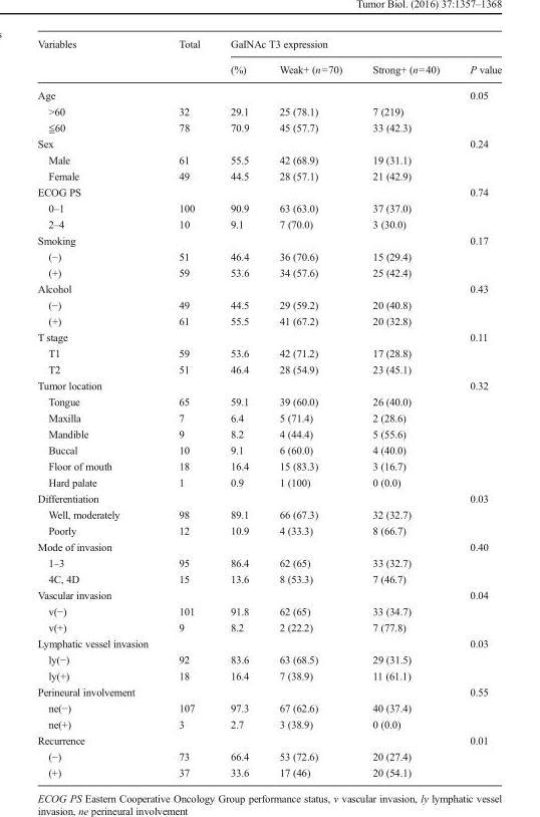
<table><thead><tr><td rowspan="2">Variables</td><td rowspan="2">Total</td><td colspan="4">GaINAc T3 expression</td></tr><tr><td>(%)</td><td>Weak+ (n=70)</td><td>Strong+ (n=40)</td><td>P value</td></tr></thead><tbody><tr><td>Age</td><td></td><td></td><td></td><td></td><td>0.05</td></tr><tr><td>&gt;60</td><td>32</td><td>29.1</td><td>25 (78.1)</td><td>7 (219)</td><td></td></tr><tr><td>≦60</td><td>78</td><td>70.9</td><td>45 (57.7)</td><td>33 (42.3)</td><td></td></tr><tr><td>Sex</td><td></td><td></td><td></td><td></td><td>0.24</td></tr><tr><td>Male</td><td>61</td><td>55.5</td><td>42 (68.9)</td><td>19 (31.1)</td><td></td></tr><tr><td>Female</td><td>49</td><td>44.5</td><td>28 (57.1)</td><td>21 (42.9)</td><td></td></tr><tr><td>ECOG PS</td><td></td><td></td><td></td><td></td><td>0.74</td></tr><tr><td>0–1</td><td>100</td><td>90.9</td><td>63 (63.0)</td><td>37 (37.0)</td><td></td></tr><tr><td>2–4</td><td>10</td><td>9.1</td><td>7 (70.0)</td><td>3 (30.0)</td><td></td></tr><tr><td>Smoking</td><td></td><td></td><td></td><td></td><td>0.17</td></tr><tr><td>(−)</td><td>51</td><td>46.4</td><td>36 (70.6)</td><td>15 (29.4)</td><td></td></tr><tr><td>(+)</td><td>59</td><td>53.6</td><td>34 (57.6)</td><td>25 (42.4)</td><td></td></tr><tr><td>Alcohol</td><td></td><td></td><td></td><td></td><td>0.43</td></tr><tr><td>(−)</td><td>49</td><td>44.5</td><td>29 (59.2)</td><td>20 (40.8)</td><td></td></tr><tr><td>(+)</td><td>61</td><td>55.5</td><td>41 (67.2)</td><td>20 (32.8)</td><td></td></tr><tr><td>T stage</td><td></td><td></td><td></td><td></td><td>0.11</td></tr><tr><td>T1</td><td>59</td><td>53.6</td><td>42 (71.2)</td><td>17 (28.8)</td><td></td></tr><tr><td>T2</td><td>51</td><td>46.4</td><td>28 (54.9)</td><td>23 (45.1)</td><td></td></tr><tr><td>Tumor location</td><td></td><td></td><td></td><td></td><td>0.32</td></tr><tr><td>Tongue</td><td>65</td><td>59.1</td><td>39 (60.0)</td><td>26 (40.0)</td><td></td></tr><tr><td>Maxilla</td><td>7</td><td>6.4</td><td>5 (71.4)</td><td>2 (28.6)</td><td></td></tr><tr><td>Mandible</td><td>9</td><td>8.2</td><td>4 (44.4)</td><td>5 (55.6)</td><td></td></tr><tr><td>Buccal</td><td>10</td><td>9.1</td><td>6 (60.0)</td><td>4 (40.0)</td><td></td></tr><tr><td>Floor of mouth</td><td>18</td><td>16.4</td><td>15 (83.3)</td><td>3 (16.7)</td><td></td></tr><tr><td>Hard palate</td><td>1</td><td>0.9</td><td>1 (100)</td><td>0 (0.0)</td><td></td></tr><tr><td>Differentiation</td><td></td><td></td><td></td><td></td><td>0.03</td></tr><tr><td>Well, moderately</td><td>98</td><td>89.1</td><td>66 (67.3)</td><td>32 (32.7)</td><td></td></tr><tr><td>Poorly</td><td>12</td><td>10.9</td><td>4 (33.3)</td><td>8 (66.7)</td><td></td></tr><tr><td>Mode of invasion</td><td></td><td></td><td></td><td></td><td>0.40</td></tr><tr><td>1–3</td><td>95</td><td>86.4</td><td>62 (65)</td><td>33 (32.7)</td><td></td></tr><tr><td>4C, 4D</td><td>15</td><td>13.6</td><td>8 (53.3)</td><td>7 (46.7)</td><td></td></tr><tr><td>Vascular invasion</td><td></td><td></td><td></td><td></td><td>0.04</td></tr><tr><td>v(−)</td><td>101</td><td>91.8</td><td>62 (65)</td><td>33 (34.7)</td><td></td></tr><tr><td>v(+)</td><td>9</td><td>8.2</td><td>2 (22.2)</td><td>7 (77.8)</td><td></td></tr><tr><td>Lymphatic vessel invasion</td><td></td><td></td><td></td><td></td><td>0.03</td></tr><tr><td>ly(−)</td><td>92</td><td>83.6</td><td>63 (68.5)</td><td>29 (31.5)</td><td></td></tr><tr><td>ly(+)</td><td>18</td><td>16.4</td><td>7 (38.9)</td><td>11 (61.1)</td><td></td></tr><tr><td>Perineural involvement</td><td></td><td></td><td></td><td></td><td>0.55</td></tr><tr><td>ne(−)</td><td>107</td><td>97.3</td><td>67 (62.6)</td><td>40 (37.4)</td><td></td></tr><tr><td>ne(+)</td><td>3</td><td>2.7</td><td>3 (38.9)</td><td>0 (0.0)</td><td></td></tr><tr><td>Recurrence</td><td></td><td></td><td></td><td></td><td>0.01</td></tr><tr><td>(−)</td><td>73</td><td>66.4</td><td>53 (72.6)</td><td>20 (27.4)</td><td></td></tr><tr><td>(+)</td><td>37</td><td>33.6</td><td>17 (46)</td><td>20 (54.1)</td><td></td></tr></tbody></table>